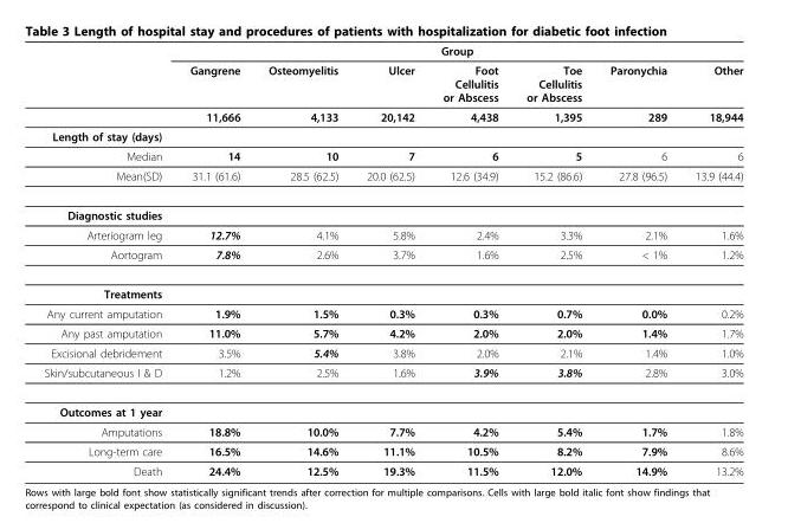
<table><thead><tr><td rowspan="2"></td><td colspan="7">Group</td></tr><tr><td>Gangrene</td><td>Osteomyelitis</td><td>Ulcer</td><td>Foot Cellulitis or Abscess</td><td>Toe Cellulitis or Abscess</td><td>Paronychia</td><td>Other</td></tr></thead><tbody><tr><td></td><td>11,666</td><td>4,133</td><td>20,142</td><td>4,438</td><td>1,395</td><td>289</td><td>18,944</td></tr><tr><td colspan="8">Length of stay (days)</td></tr><tr><td>Median</td><td>14</td><td>10</td><td>7</td><td>6</td><td>5</td><td>6</td><td>6</td></tr><tr><td>Mean(SD)</td><td>31.1 (61.6)</td><td>28.5 (62.5)</td><td>20.0 (62.5)</td><td>12.6 (34.9)</td><td>15.2 (86.6)</td><td>27.8 (96.5)</td><td>13.9 (44.4)</td></tr><tr><td colspan="8">Diagnostic studies</td></tr><tr><td>Arteriogram leg</td><td>12.7%</td><td>4.1%</td><td>5.8%</td><td>2.4%</td><td>3.3%</td><td>2.1%</td><td>1.6%</td></tr><tr><td>Aortogram</td><td>7.8%</td><td>2.6%</td><td>3.7%</td><td>1.6%</td><td>2.5%</td><td>&lt; 1%</td><td>1.2%</td></tr><tr><td colspan="8">Treatments</td></tr><tr><td>Any current amputation</td><td>1.9%</td><td>1.5%</td><td>0.3%</td><td>0.3%</td><td>0.7%</td><td>0.0%</td><td>0.2%</td></tr><tr><td>Any past amputation</td><td>11.0%</td><td>5.7%</td><td>4.2%</td><td>2.0%</td><td>2.0%</td><td>1.4%</td><td>1.7%</td></tr><tr><td>Excisional debridement</td><td>3.5%</td><td>5.4%</td><td>3.8%</td><td>2.0%</td><td>2.1%</td><td>1.4%</td><td>1.0%</td></tr><tr><td>Skin/subcutaneous I &amp; D</td><td>1.2%</td><td>2.5%</td><td>1.6%</td><td>3.9%</td><td>3.8%</td><td>2.8%</td><td>3.0%</td></tr><tr><td colspan="8">Outcomes at 1 year</td></tr><tr><td>Amputations</td><td>18.8%</td><td>10.0%</td><td>7.7%</td><td>4.2%</td><td>5.4%</td><td>1.7%</td><td>1.8%</td></tr><tr><td>Long-term care</td><td>16.5%</td><td>14.6%</td><td>11.1%</td><td>10.5%</td><td>8.2%</td><td>7.9%</td><td>8.6%</td></tr><tr><td>Death</td><td>24.4%</td><td>12.5%</td><td>19.3%</td><td>11.5%</td><td>12.0%</td><td>14.9%</td><td>13.2%</td></tr></tbody></table>